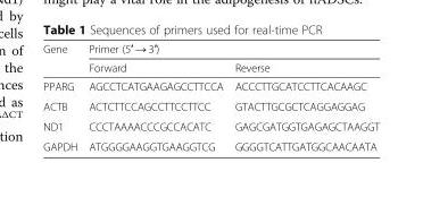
<table><thead><tr><td rowspan="2">Gene</td><td colspan="2">Primer (5′ → 3′)</td></tr><tr><td>Forward</td><td>Reverse</td></tr></thead><tbody><tr><td>PPARG</td><td>AGCCTCATGAAGAGCCTTCCA</td><td>ACCCTTGCATCCTTCACAAGC</td></tr><tr><td>ACTB</td><td>ACTCTTCCAGCCTTCCTTCC</td><td>GTACTTGCGCTCAGGAGGAG</td></tr><tr><td>ND1</td><td>CCCTAAAACCCGCCACATC</td><td>GAGCGATGGTGAGAGCTAAGGT</td></tr><tr><td>GAPDH</td><td>ATGGGGAAGGTGAAGGTCG</td><td>GGGGTCATTGATGGCAACAATA</td></tr></tbody></table>